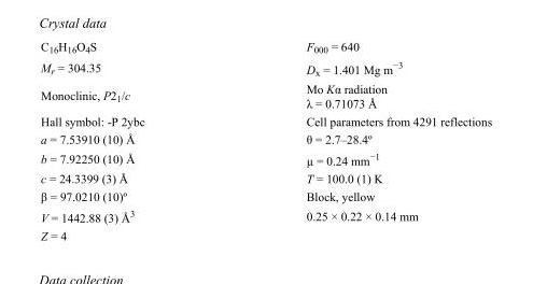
<table><tbody><tr><td>C<sub>16</sub>H<sub>16</sub>O<sub>4</sub>S</td><td>F<sub>000</sub> = 640</td></tr><tr><td>M<sub>r</sub> = 304.35</td><td>D<sub>x</sub> = 1.401 Mg m<sup>−3</sup></td></tr><tr><td>Monoclinic, P2<sub>1</sub>/c</td><td>Mo Kα radiation λ = 0.71073 Å</td></tr><tr><td>Hall symbol: -P 2ybc</td><td>Cell parameters from 4291 reflections</td></tr><tr><td>a = 7.53910 (10) Å</td><td>θ = 2.7–28.4º</td></tr><tr><td>b = 7.92250 (10) Å</td><td>µ = 0.24 mm<sup>−1</sup></td></tr><tr><td>c = 24.3399 (3) Å</td><td>T = 100.0 (1) K</td></tr><tr><td>β = 97.0210 (10)º</td><td>Block, yellow</td></tr><tr><td>V = 1442.88 (3) Å<sup>3</sup></td><td>0.25 × 0.22 × 0.14 mm</td></tr><tr><td>Z = 4</td><td></td></tr></tbody></table>